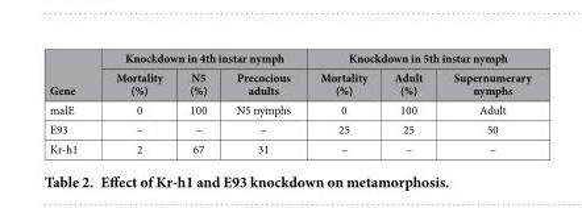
<table><thead><tr><td rowspan="2">Gene</td><td colspan="3">Knockdown in 4th instar nymph</td><td colspan="3">Knockdown in 5th instar nymph</td></tr><tr><td>Mortality (%)</td><td>N5 (%)</td><td>Precocious adults</td><td>Mortality (%)</td><td>Adult (%)</td><td>Supernumerary nymphs</td></tr></thead><tbody><tr><td>malE</td><td>0</td><td>100</td><td>N5 nymphs</td><td>0</td><td>100</td><td>Adult</td></tr><tr><td>E93</td><td>–</td><td>–</td><td>–</td><td>25</td><td>25</td><td>50</td></tr><tr><td>Kr-h1</td><td>2</td><td>67</td><td>31</td><td>–</td><td>–</td><td>–</td></tr></tbody></table>